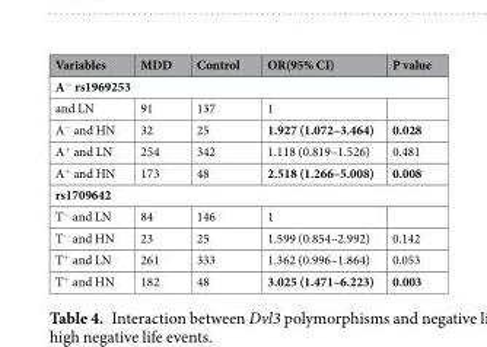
<table><thead><tr><td>Variables</td><td>MDD</td><td>Control</td><td>OR(95% CI)</td><td>P value</td></tr></thead><tbody><tr><td colspan="5">A<sup>−</sup> rs1969253</td></tr><tr><td>and LN</td><td>91</td><td>137</td><td>1</td><td></td></tr><tr><td>A<sup>−</sup> and HN</td><td>32</td><td>25</td><td>1.927 (1.072–3.464)</td><td>0.028</td></tr><tr><td>A<sup>+</sup> and LN</td><td>254</td><td>342</td><td>1.118 (0.819–1.526)</td><td>0.481</td></tr><tr><td>A<sup>+</sup> and HN</td><td>173</td><td>48</td><td>2.518 (1.266–5.008)</td><td>0.008</td></tr><tr><td colspan="5">rs1709642</td></tr><tr><td>T<sup>−</sup> and LN</td><td>84</td><td>146</td><td>1</td><td></td></tr><tr><td>T<sup>−</sup> and HN</td><td>23</td><td>25</td><td>1.599 (0.854–2.992)</td><td>0.142</td></tr><tr><td>T<sup>+</sup> and LN</td><td>261</td><td>333</td><td>1.362 (0.996–1.864)</td><td>0.053</td></tr><tr><td>T<sup>+</sup> and HN</td><td>182</td><td>48</td><td>3.025 (1.471–6.223)</td><td>0.003</td></tr></tbody></table>